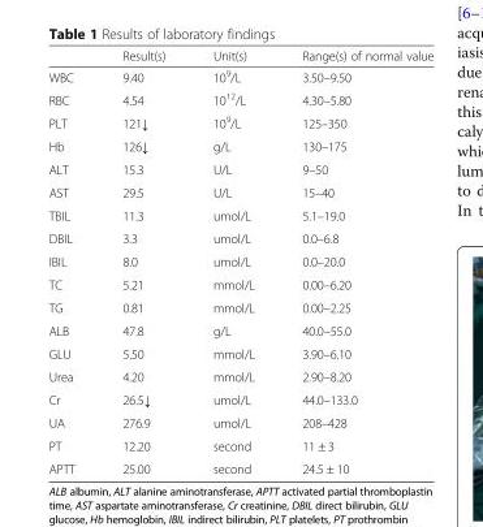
<table><thead><tr><td></td><td>Result(s)</td><td>Unit(s)</td><td>Range(s) of normal value</td></tr></thead><tbody><tr><td>WBC</td><td>9.40</td><td>10<sup>9</sup>/L</td><td>3.50–9.50</td></tr><tr><td>RBC</td><td>4.54</td><td>10<sup>12</sup>/L</td><td>4.30–5.80</td></tr><tr><td>PLT</td><td>121↓</td><td>10<sup>9</sup>/L</td><td>125–350</td></tr><tr><td>Hb</td><td>126↓</td><td>g/L</td><td>130–175</td></tr><tr><td>ALT</td><td>15.3</td><td>U/L</td><td>9–50</td></tr><tr><td>AST</td><td>29.5</td><td>U/L</td><td>15–40</td></tr><tr><td>TBIL</td><td>11.3</td><td>umol/L</td><td>5.1–19.0</td></tr><tr><td>DBIL</td><td>3.3</td><td>umol/L</td><td>0.0–6.8</td></tr><tr><td>IBIL</td><td>8.0</td><td>umol/L</td><td>0.0–20.0</td></tr><tr><td>TC</td><td>5.21</td><td>mmol/L</td><td>0.00–6.20</td></tr><tr><td>TG</td><td>0.81</td><td>mmol/L</td><td>0.00–2.25</td></tr><tr><td>ALB</td><td>47.8</td><td>g/L</td><td>40.0–55.0</td></tr><tr><td>GLU</td><td>5.50</td><td>mmol/L</td><td>3.90–6.10</td></tr><tr><td>Urea</td><td>4.20</td><td>mmol/L</td><td>2.90–8.20</td></tr><tr><td>Cr</td><td>26.5↓</td><td>umol/L</td><td>44.0–133.0</td></tr><tr><td>UA</td><td>276.9</td><td>umol/L</td><td>208–428</td></tr><tr><td>PT</td><td>12.20</td><td>second</td><td>11 ± 3</td></tr><tr><td>APTT</td><td>25.00</td><td>second</td><td>24.5 ± 10</td></tr></tbody></table>